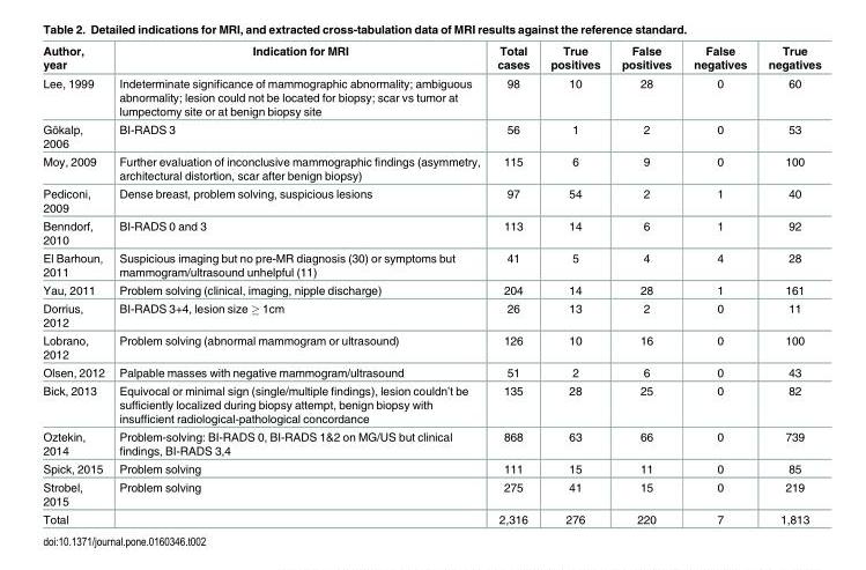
<table><thead><tr><td>Author, year</td><td>Indication for MRI</td><td>Total cases</td><td>True positives</td><td>False positives</td><td>False negatives</td><td>True negatives</td></tr></thead><tbody><tr><td>Lee, 1999</td><td>Indeterminate significance of mammographic abnormality; ambiguous abnormality; lesion could not be located for biopsy; scar vs tumor at lumpectomy site or at benign biopsy site</td><td>98</td><td>10</td><td>28</td><td>0</td><td>60</td></tr><tr><td>Gökalp, 2006</td><td>BI-RADS 3</td><td>56</td><td>1</td><td>2</td><td>0</td><td>53</td></tr><tr><td>Moy, 2009</td><td>Further evaluation of inconclusive mammographic findings (asymmetry, architectural distortion, scar after benign biopsy)</td><td>115</td><td>6</td><td>9</td><td>0</td><td>100</td></tr><tr><td>Pediconi, 2009</td><td>Dense breast, problem solving, suspicious lesions</td><td>97</td><td>54</td><td>2</td><td>1</td><td>40</td></tr><tr><td>Benndorf, 2010</td><td>BI-RADS 0 and 3</td><td>113</td><td>14</td><td>6</td><td>1</td><td>92</td></tr><tr><td>El Barhoun, 2011</td><td>Suspicious imaging but no pre-MR diagnosis (30) or symptoms but mammogram/ultrasound unhelpful (11)</td><td>41</td><td>5</td><td>4</td><td>4</td><td>28</td></tr><tr><td>Yau, 2011</td><td>Problem solving (clinical, imaging, nipple discharge)</td><td>204</td><td>14</td><td>28</td><td>1</td><td>161</td></tr><tr><td>Dorrius, 2012</td><td>BI-RADS 3+4, lesion size ≥ 1cm</td><td>26</td><td>13</td><td>2</td><td>0</td><td>11</td></tr><tr><td>Lobrano, 2012</td><td>Problem solving (abnormal mammogram or ultrasound)</td><td>126</td><td>10</td><td>16</td><td>0</td><td>100</td></tr><tr><td>Olsen, 2012</td><td>Palpable masses with negative mammogram/ultrasound</td><td>51</td><td>2</td><td>6</td><td>0</td><td>43</td></tr><tr><td>Bick, 2013</td><td>Equivocal or minimal sign (single/multiple findings), lesion couldn’t be sufficiently localized during biopsy attempt, benign biopsy with insufficient radiological-pathological concordance</td><td>135</td><td>28</td><td>25</td><td>0</td><td>82</td></tr><tr><td>Oztekin, 2014</td><td>Problem-solving: BI-RADS 0, BI-RADS 1&amp;2 on MG/US but clinical findings, BI-RADS 3,4</td><td>868</td><td>63</td><td>66</td><td>0</td><td>739</td></tr><tr><td>Spick, 2015</td><td>Problem solving</td><td>111</td><td>15</td><td>11</td><td>0</td><td>85</td></tr><tr><td>Strobel, 2015</td><td>Problem solving</td><td>275</td><td>41</td><td>15</td><td>0</td><td>219</td></tr><tr><td>Total</td><td></td><td>2,316</td><td>276</td><td>220</td><td>7</td><td>1,813</td></tr></tbody></table>